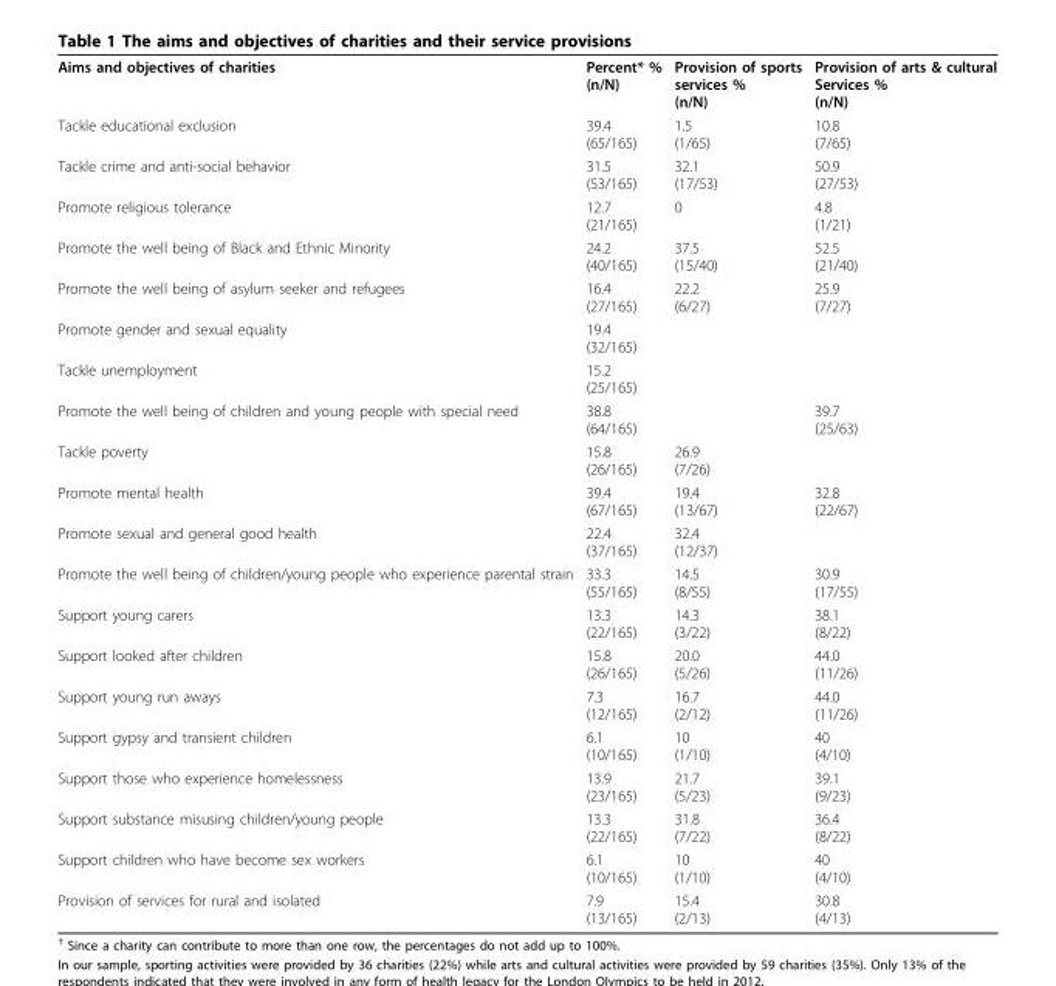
<table><tbody><tr><td>Aims and objectives of charities</td><td>Percent* % (n/N)</td><td>Provision of sports services % (n/N)</td><td>Provision of arts &amp; cultural Services % (n/N)</td></tr><tr><td>Tackle educational exclusion</td><td>39.4 (65/165)</td><td>1.5 (1/65)</td><td>10.8 (7/65)</td></tr><tr><td>Tackle crime and anti-social behavior</td><td>31.5 (53/165)</td><td>32.1 (17/53)</td><td>50.9 (27/53)</td></tr><tr><td>Promote religious tolerance</td><td>12.7 (21/165)</td><td>0</td><td>4.8 (1/21)</td></tr><tr><td>Promote the well being of Black and Ethnic Minority</td><td>24.2 (40/165)</td><td>37.5 (15/40)</td><td>52.5 (21/40)</td></tr><tr><td>Promote the well being of asylum seeker and refugees</td><td>16.4 (27/165)</td><td>22.2 (6/27)</td><td>25.9 (7/27)</td></tr><tr><td>Promote gender and sexual equality</td><td>19.4 (32/165)</td><td></td><td></td></tr><tr><td>Tackle unemployment</td><td>15.2 (25/165)</td><td></td><td></td></tr><tr><td>Promote the well being of children and young people with special need</td><td>38.8 (64/165)</td><td></td><td>39.7 (25/63)</td></tr><tr><td>Tackle poverty</td><td>15.8 (26/165)</td><td>26.9 (7/26)</td><td></td></tr><tr><td>Promote mental health</td><td>39.4 (67/165)</td><td>19.4 (13/67)</td><td>32.8 (22/67)</td></tr><tr><td>Promote sexual and general good health</td><td>22.4 (37/165)</td><td>32.4 (12/37)</td><td></td></tr><tr><td>Promote the well being of children/young people who experience parental strain</td><td>33.3 (55/165)</td><td>14.5 (8/55)</td><td>30.9 (17/55)</td></tr><tr><td>Support young carers</td><td>13.3 (22/165)</td><td>14.3 (3/22)</td><td>38.1 (8/22)</td></tr><tr><td>Support looked after children</td><td>15.8 (26/165)</td><td>20.0 (5/26)</td><td>44.0 (11/26)</td></tr><tr><td>Support young run aways</td><td>7.3 (12/165)</td><td>16.7 (2/12)</td><td>44.0 (11/26)</td></tr><tr><td>Support gypsy and transient children</td><td>6.1 (10/165)</td><td>10 (1/10)</td><td>40 (4/10)</td></tr><tr><td>Support those who experience homelessness</td><td>13.9 (23/165)</td><td>21.7 (5/23)</td><td>39.1 (9/23)</td></tr><tr><td>Support substance misusing children/young people</td><td>13.3 (22/165)</td><td>31.8 (7/22)</td><td>36.4 (8/22)</td></tr><tr><td>Support children who have become sex workers</td><td>6.1 (10/165)</td><td>10 (1/10)</td><td>40 (4/10)</td></tr><tr><td>Provision of services for rural and isolated</td><td>7.9 (13/165)</td><td>15.4 (2/13)</td><td>30.8 (4/13)</td></tr></tbody></table>